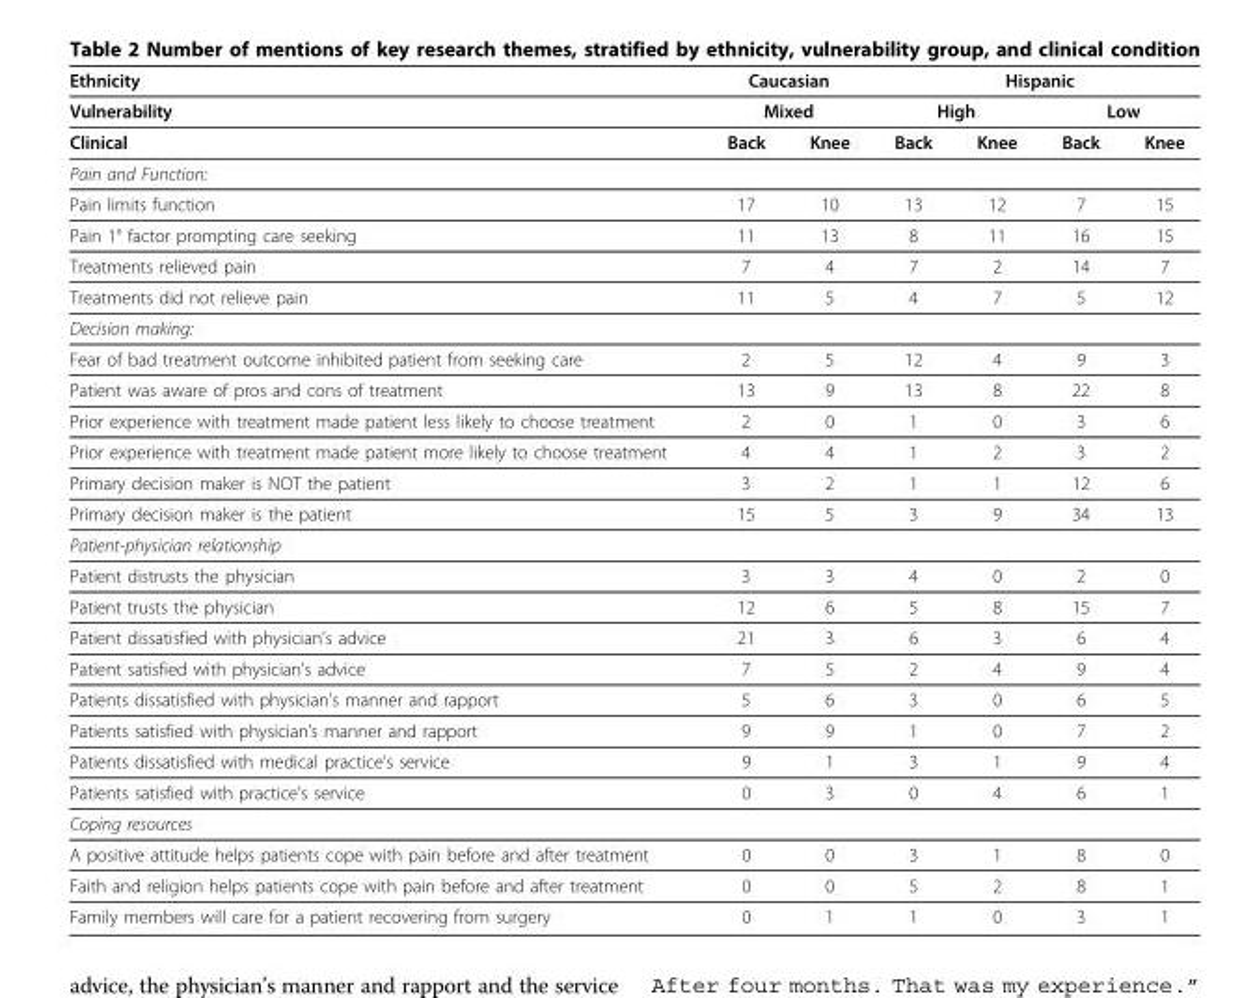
<table><thead><tr><td rowspan="3">Ethnicity Vulnerability Clinical</td><td rowspan="2" colspan="2">Caucasian Mixed</td><td colspan="4">Hispanic</td></tr><tr><td colspan="2">High</td><td colspan="2">Low</td></tr><tr><td>Back</td><td>Knee</td><td>Back</td><td>Knee</td><td>Back</td><td>Knee</td></tr></thead><tbody><tr><td colspan="7">Pain and Function:</td></tr><tr><td>Pain limits function</td><td>17</td><td>10</td><td>13</td><td>12</td><td>7</td><td>15</td></tr><tr><td>Pain 1° factor prompting care seeking</td><td>11</td><td>13</td><td>8</td><td>11</td><td>16</td><td>15</td></tr><tr><td>Treatments relieved pain</td><td>7</td><td>4</td><td>7</td><td>2</td><td>14</td><td>7</td></tr><tr><td>Treatments did not relieve pain</td><td>11</td><td>5</td><td>4</td><td>7</td><td>5</td><td>12</td></tr><tr><td colspan="7">Decision making:</td></tr><tr><td>Fear of bad treatment outcome inhibited patient from seeking care</td><td>2</td><td>5</td><td>12</td><td>4</td><td>9</td><td>3</td></tr><tr><td>Patient was aware of pros and cons of treatment</td><td>13</td><td>9</td><td>13</td><td>8</td><td>22</td><td>8</td></tr><tr><td>Prior experience with treatment made patient less likely to choose treatment</td><td>2</td><td>0</td><td>1</td><td>0</td><td>3</td><td>6</td></tr><tr><td>Prior experience with treatment made patient more likely to choose treatment</td><td>4</td><td>4</td><td>1</td><td>2</td><td>3</td><td>2</td></tr><tr><td>Primary decision maker is NOT the patient</td><td>3</td><td>2</td><td>1</td><td>1</td><td>12</td><td>6</td></tr><tr><td>Primary decision maker is the patient</td><td>15</td><td>5</td><td>3</td><td>9</td><td>34</td><td>13</td></tr><tr><td colspan="7">Patient-physician relationship</td></tr><tr><td>Patient distrusts the physician</td><td>3</td><td>3</td><td>4</td><td>0</td><td>2</td><td>0</td></tr><tr><td>Patient trusts the physician</td><td>12</td><td>6</td><td>5</td><td>8</td><td>15</td><td>7</td></tr><tr><td>Patient dissatisfied with physician’s advice</td><td>21</td><td>3</td><td>6</td><td>3</td><td>6</td><td>4</td></tr><tr><td>Patient satisfied with physician’s advice</td><td>7</td><td>5</td><td>2</td><td>4</td><td>9</td><td>4</td></tr><tr><td>Patients dissatisfied with physician’s manner and rapport</td><td>5</td><td>6</td><td>3</td><td>0</td><td>6</td><td>5</td></tr><tr><td>Patients satisfied with physician’s manner and rapport</td><td>9</td><td>9</td><td>1</td><td>0</td><td>7</td><td>2</td></tr><tr><td>Patients dissatisfied with medical practice’s service</td><td>9</td><td>1</td><td>3</td><td>1</td><td>9</td><td>4</td></tr><tr><td>Patients satisfied with practice’s service</td><td>0</td><td>3</td><td>0</td><td>4</td><td>6</td><td>1</td></tr><tr><td colspan="7">Coping resources</td></tr><tr><td>A positive attitude helps patients cope with pain before and after treatment</td><td>0</td><td>0</td><td>3</td><td>1</td><td>8</td><td>0</td></tr><tr><td>Faith and religion helps patients cope with pain before and after treatment</td><td>0</td><td>0</td><td>5</td><td>2</td><td>8</td><td>1</td></tr><tr><td>Family members will care for a patient recovering from surgery</td><td>0</td><td>1</td><td>1</td><td>0</td><td>3</td><td>1</td></tr></tbody></table>